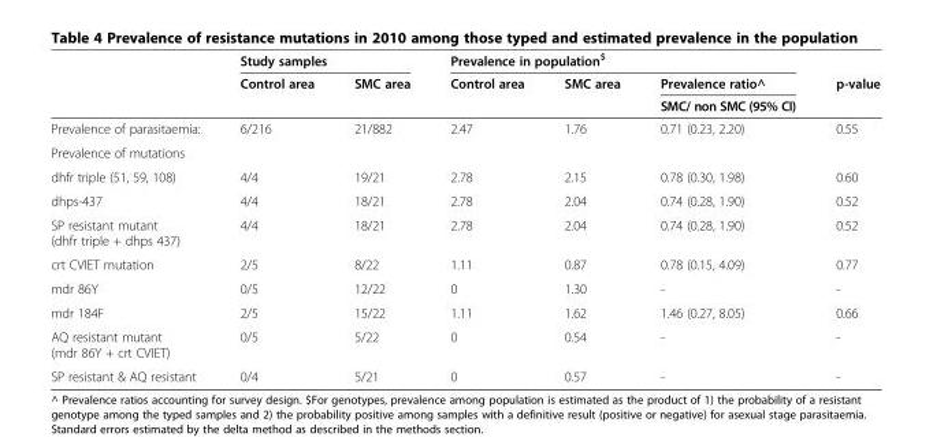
<table><thead><tr><td rowspan="3"></td><td colspan="2">Study samples</td><td colspan="3">Prevalence in population<sup>$</sup></td><td rowspan="3">p-value</td></tr><tr><td rowspan="2">Control area</td><td rowspan="2">SMC area</td><td rowspan="2">Control area</td><td rowspan="2">SMC area</td><td rowspan="2">Prevalence ratio^ SMC/ non SMC (95% CI)</td></tr><tr></tr></thead><tbody><tr><td>Prevalence of parasitaemia:</td><td>6/216</td><td>21/882</td><td>2.47</td><td>1.76</td><td>0.71 (0.23, 2.20)</td><td>0.55</td></tr><tr><td colspan="7">Prevalence of mutations</td></tr><tr><td>dhfr triple (51, 59, 108)</td><td>4/4</td><td>19/21</td><td>2.78</td><td>2.15</td><td>0.78 (0.30, 1.98)</td><td>0.60</td></tr><tr><td>dhps-437</td><td>4/4</td><td>18/21</td><td>2.78</td><td>2.04</td><td>0.74 (0.28, 1.90)</td><td>0.52</td></tr><tr><td>SP resistant mutant (dhfr triple + dhps 437)</td><td>4/4</td><td>18/21</td><td>2.78</td><td>2.04</td><td>0.74 (0.28, 1.90)</td><td>0.52</td></tr><tr><td>crt CVIET mutation</td><td>2/5</td><td>8/22</td><td>1.11</td><td>0.87</td><td>0.78 (0.15, 4.09)</td><td>0.77</td></tr><tr><td>mdr 86Y</td><td>0/5</td><td>12/22</td><td>0</td><td>1.30</td><td>-</td><td>-</td></tr><tr><td>mdr 184F</td><td>2/5</td><td>15/22</td><td>1.11</td><td>1.62</td><td>1.46 (0.27, 8.05)</td><td>0.66</td></tr><tr><td>AQ resistant mutant (mdr 86Y + crt CVIET)</td><td>0/5</td><td>5/22</td><td>0</td><td>0.54</td><td>-</td><td>-</td></tr><tr><td>SP resistant &amp; AQ resistant</td><td>0/4</td><td>5/21</td><td>0</td><td>0.57</td><td>-</td><td>-</td></tr></tbody></table>